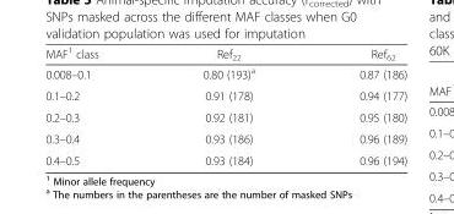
<table><thead><tr><td>MAF<sup>1</sup> class</td><td>Ref<sub>22</sub></td><td>Ref<sub>62</sub></td></tr></thead><tbody><tr><td>0.008–0.1</td><td>0.80 (193)<sup>a</sup></td><td>0.87 (186)</td></tr><tr><td>0.1–0.2</td><td>0.91 (178)</td><td>0.94 (177)</td></tr><tr><td>0.2–0.3</td><td>0.92 (181)</td><td>0.95 (180)</td></tr><tr><td>0.3–0.4</td><td>0.93 (186)</td><td>0.96 (189)</td></tr><tr><td>0.4–0.5</td><td>0.93 (184)</td><td>0.96 (194)</td></tr></tbody></table>